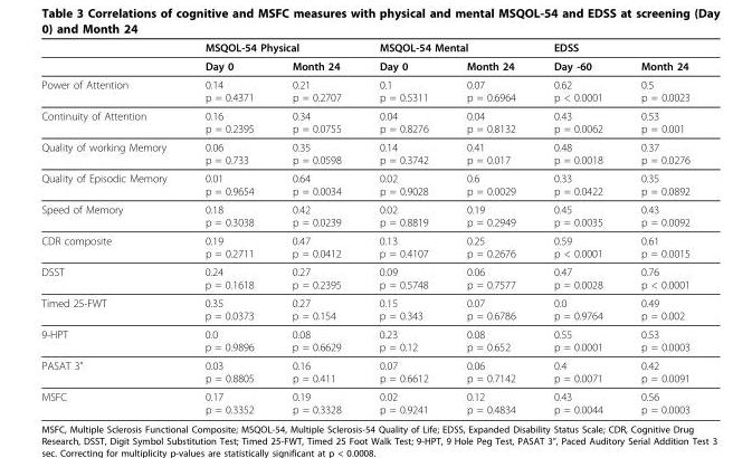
<table><thead><tr><td rowspan="2"></td><td colspan="2">MSQOL-54 Physical</td><td colspan="2">MSQOL-54 Mental</td><td colspan="2">EDSS</td></tr><tr><td>Day 0</td><td>Month 24</td><td>Day 0</td><td>Month 24</td><td>Day -60</td><td>Month 24</td></tr></thead><tbody><tr><td>Power of Attention</td><td>0.14 p = 0.4371</td><td>0.21 p = 0.2707</td><td>0.1 p = 0.5311</td><td>0.07 p = 0.6964</td><td>0.62 p &lt; 0.0001</td><td>0.5 p = 0.0023</td></tr><tr><td>Continuity of Attention</td><td>0.16 p = 0.2395</td><td>0.34 p = 0.0755</td><td>0.04 p = 0.8276</td><td>0.04 p = 0.8132</td><td>0.43 p = 0.0062</td><td>0.53 p = 0.001</td></tr><tr><td>Quality of working Memory</td><td>0.06 p = 0.733</td><td>0.35 p = 0.0598</td><td>0.14 p = 0.3742</td><td>0.41 p = 0.017</td><td>0.48 p = 0.0018</td><td>0.37 p = 0.0276</td></tr><tr><td>Quality of Episodic Memory</td><td>0.01 p = 0.9654</td><td>0.64 p = 0.0034</td><td>0.02 p = 0.9028</td><td>0.6 p = 0.0029</td><td>0.33 p = 0.0422</td><td>0.35 p = 0.0892</td></tr><tr><td>Speed of Memory</td><td>0.18 p = 0.3038</td><td>0.42 p = 0.0239</td><td>0.02 p = 0.8819</td><td>0.19 p = 0.2949</td><td>0.45 p = 0.0035</td><td>0.43 p = 0.0092</td></tr><tr><td>CDR composite</td><td>0.19 p = 0.2711</td><td>0.47 p = 0.0412</td><td>0.13 p = 0.4107</td><td>0.25 p = 0.2676</td><td>0.59 p &lt; 0.0001</td><td>0.61 p = 0.0015</td></tr><tr><td>DSST</td><td>0.24 p = 0.1618</td><td>0.27 p = 0.2395</td><td>0.09 p = 0.5748</td><td>0.06 p = 0.7577</td><td>0.47 p = 0.0028</td><td>0.76 p &lt; 0.0001</td></tr><tr><td>Timed 25-FWT</td><td>0.35 p = 0.0373</td><td>0.27 p = 0.154</td><td>0.15 p = 0.343</td><td>0.07 p = 0.6786</td><td>0.0 p = 0.9764</td><td>0.49 p = 0.002</td></tr><tr><td>9-HPT</td><td>0.0 p = 0.9896</td><td>0.08 p = 0.6629</td><td>0.23 p = 0.12</td><td>0.08 p = 0.652</td><td>0.55 p = 0.0001</td><td>0.53 p = 0.0003</td></tr><tr><td>PASAT 3”</td><td>0.03 p = 0.8805</td><td>0.16 p = 0.411</td><td>0.07 p = 0.6612</td><td>0.06 p = 0.7142</td><td>0.4 p = 0.0071</td><td>0.42 p = 0.0091</td></tr><tr><td>MSFC</td><td>0.17 p = 0.3352</td><td>0.19 p = 0.3328</td><td>0.02 p = 0.9241</td><td>0.12 p = 0.4834</td><td>0.43 p = 0.0044</td><td>0.56 p = 0.0003</td></tr></tbody></table>